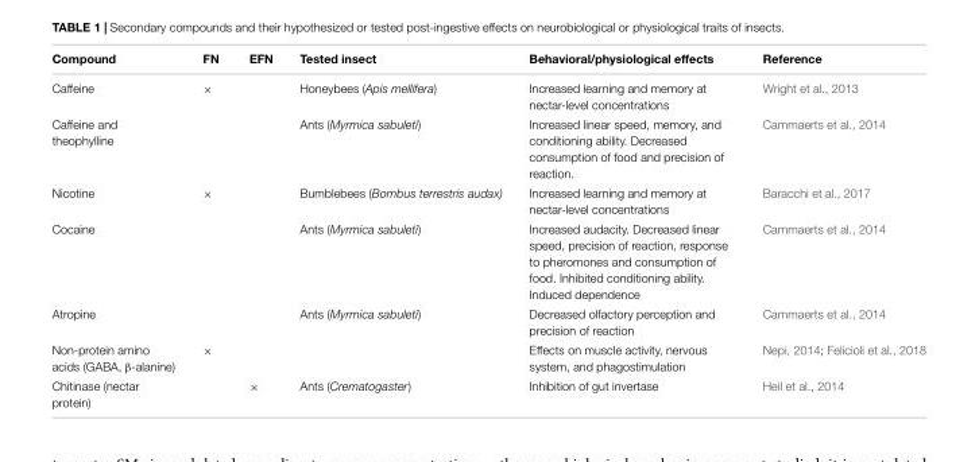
<table><thead><tr><td>Compound</td><td>FN</td><td>EFN</td><td>Tested insect</td><td>Behavioral/physiological effects</td><td>Reference</td></tr></thead><tbody><tr><td>Caffeine</td><td>×</td><td></td><td>Honeybees (Apis mellifera)</td><td>Increased learning and memory at nectar-level concentrations</td><td>Wright et al., 2013</td></tr><tr><td>Caffeine and theophylline</td><td></td><td></td><td>Ants (Myrmica sabuleti)</td><td>Increased linear speed, memory, and conditioning ability. Decreased consumption of food and precision of reaction.</td><td>Cammaerts et al., 2014</td></tr><tr><td>Nicotine</td><td>×</td><td></td><td>Bumblebees (Bombus terrestris audax)</td><td>Increased learning and memory at nectar-level concentrations</td><td>Baracchi et al., 2017</td></tr><tr><td>Cocaine</td><td></td><td></td><td>Ants (Myrmica sabuleti)</td><td>Increased audacity. Decreased linear speed, precision of reaction, response to pheromones and consumption of food. Inhibited conditioning ability. Induced dependence</td><td>Cammaerts et al., 2014</td></tr><tr><td>Atropine</td><td></td><td></td><td>Ants (Myrmica sabuleti)</td><td>Decreased olfactory perception and precision of reaction</td><td>Cammaerts et al., 2014</td></tr><tr><td>Non-protein amino acids (GABA, β-alanine)</td><td>×</td><td></td><td></td><td>Effects on muscle activity, nervous system, and phagostimulation</td><td>Nepi, 2014; Felicioli et al., 2018</td></tr><tr><td>Chitinase (nectar protein)</td><td></td><td>×</td><td>Ants (Crematogaster)</td><td>Inhibition of gut invertase</td><td>Heil et al., 2014</td></tr></tbody></table>